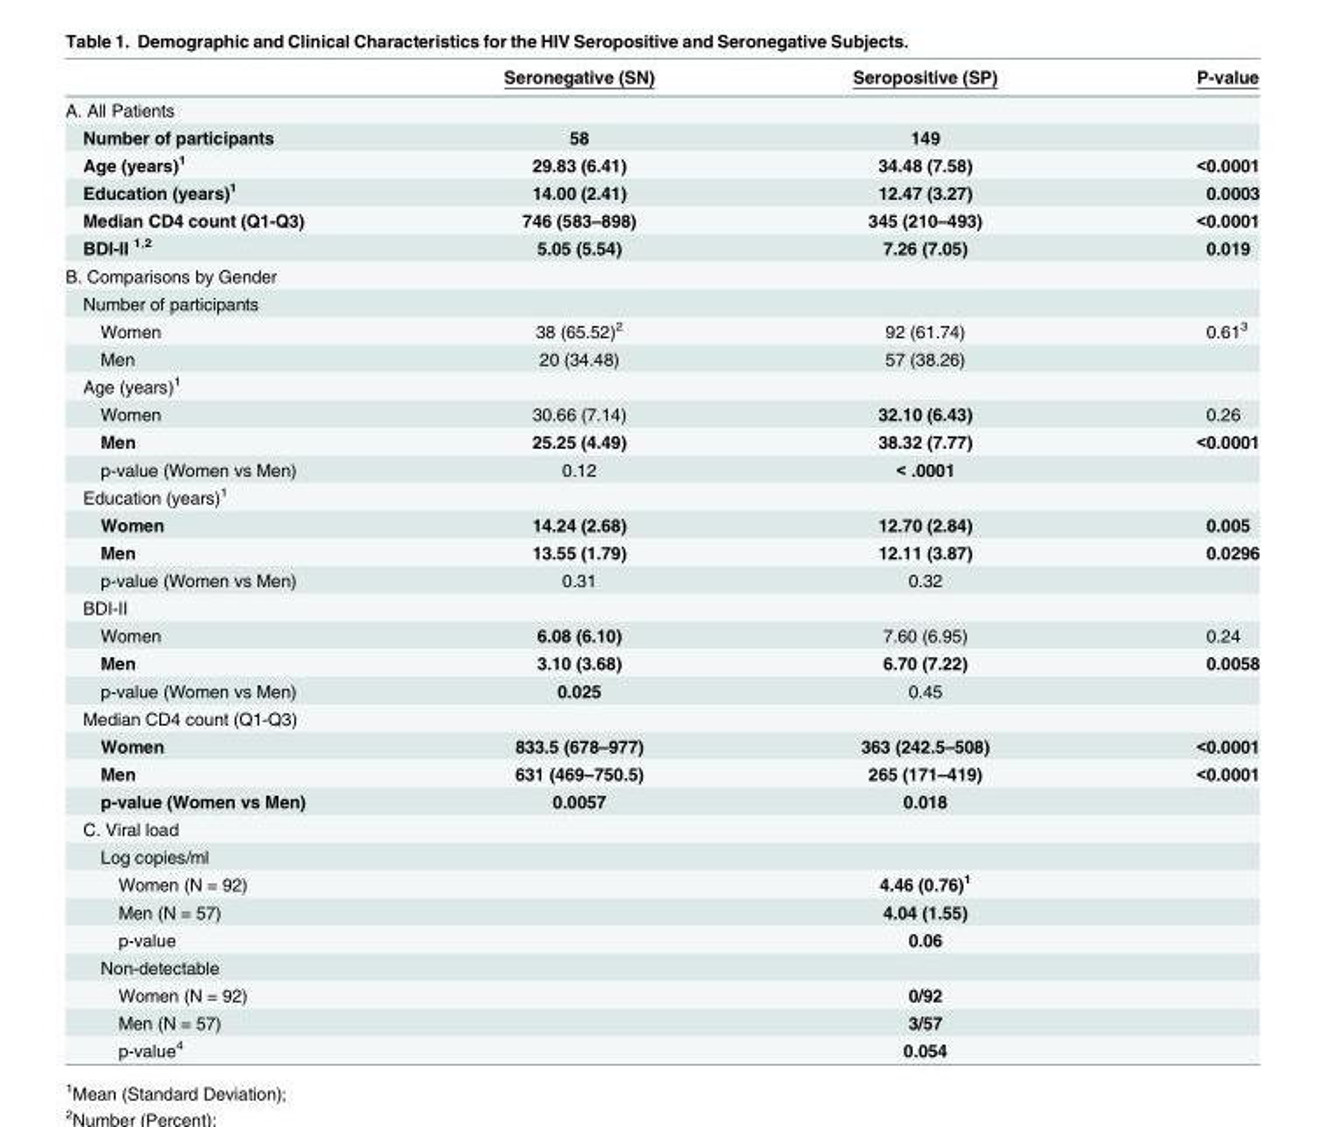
<table><thead><tr><td></td><td>Seronegative (SN)</td><td>Seropositive (SP)</td><td>P-value</td></tr></thead><tbody><tr><td colspan="4">A. All Patients</td></tr><tr><td>Number of participants</td><td>58</td><td>149</td><td></td></tr><tr><td>Age (years)<sup>1</sup></td><td>29.83 (6.41)</td><td>34.48 (7.58)</td><td>&lt;0.0001</td></tr><tr><td>Education (years)<sup>1</sup></td><td>14.00 (2.41)</td><td>12.47 (3.27)</td><td>0.0003</td></tr><tr><td>Median CD4 count (Q1-Q3)</td><td>746 (583–898)</td><td>345 (210–493)</td><td>&lt;0.0001</td></tr><tr><td>BDI-II <sup>1,2</sup></td><td>5.05 (5.54)</td><td>7.26 (7.05)</td><td>0.019</td></tr><tr><td colspan="4">B. Comparisons by Gender</td></tr><tr><td colspan="4">Number of participants</td></tr><tr><td>Women</td><td>38 (65.52)<sup>2</sup></td><td>92 (61.74)</td><td>0.61<sup>3</sup></td></tr><tr><td>Men</td><td>20 (34.48)</td><td>57 (38.26)</td><td></td></tr><tr><td colspan="4">Age (years)<sup>1</sup></td></tr><tr><td>Women</td><td>30.66 (7.14)</td><td>32.10 (6.43)</td><td>0.26</td></tr><tr><td>Men</td><td>25.25 (4.49)</td><td>38.32 (7.77)</td><td>&lt;0.0001</td></tr><tr><td>p-value (Women vs Men)</td><td>0.12</td><td>&lt; .0001</td><td></td></tr><tr><td colspan="4">Education (years)<sup>1</sup></td></tr><tr><td>Women</td><td>14.24 (2.68)</td><td>12.70 (2.84)</td><td>0.005</td></tr><tr><td>Men</td><td>13.55 (1.79)</td><td>12.11 (3.87)</td><td>0.0296</td></tr><tr><td>p-value (Women vs Men)</td><td>0.31</td><td>0.32</td><td></td></tr><tr><td colspan="4">BDI-II</td></tr><tr><td>Women</td><td>6.08 (6.10)</td><td>7.60 (6.95)</td><td>0.24</td></tr><tr><td>Men</td><td>3.10 (3.68)</td><td>6.70 (7.22)</td><td>0.0058</td></tr><tr><td>p-value (Women vs Men)</td><td>0.025</td><td>0.45</td><td></td></tr><tr><td colspan="4">Median CD4 count (Q1-Q3)</td></tr><tr><td>Women</td><td>833.5 (678–977)</td><td>363 (242.5–508)</td><td>&lt;0.0001</td></tr><tr><td>Men</td><td>631 (469–750.5)</td><td>265 (171–419)</td><td>&lt;0.0001</td></tr><tr><td>p-value (Women vs Men)</td><td>0.0057</td><td>0.018</td><td></td></tr><tr><td colspan="4">C. Viral load</td></tr><tr><td colspan="4">Log copies/ml</td></tr><tr><td>Women (N = 92)</td><td></td><td>4.46 (0.76)<sup>1</sup></td><td></td></tr><tr><td>Men (N = 57)</td><td></td><td>4.04 (1.55)</td><td></td></tr><tr><td>p-value</td><td></td><td>0.06</td><td></td></tr><tr><td colspan="4">Non-detectable</td></tr><tr><td>Women (N = 92)</td><td></td><td>0/92</td><td></td></tr><tr><td>Men (N = 57)</td><td></td><td>3/57</td><td></td></tr><tr><td>p-value<sup>4</sup></td><td></td><td>0.054</td><td></td></tr></tbody></table>